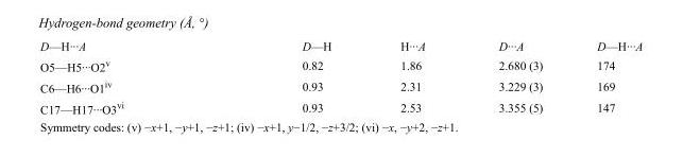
<table><tbody><tr><td>D—H···A</td><td>D—H</td><td>H···A</td><td>D···A</td><td>D—H···A</td></tr><tr><td>O5—H5···O2<sup>v</sup></td><td>0.82</td><td>1.86</td><td>2.680 (3)</td><td>174</td></tr><tr><td>C6—H6···O1<sup>iv</sup></td><td>0.93</td><td>2.31</td><td>3.229 (3)</td><td>169</td></tr><tr><td>C17—H17···O3<sup>vi</sup></td><td>0.93</td><td>2.53</td><td>3.355 (5)</td><td>147</td></tr></tbody></table>